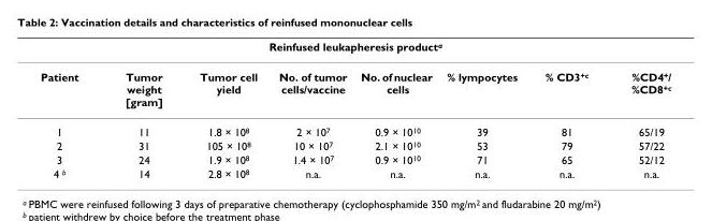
<table><thead><tr><td colspan="8">Reinfused leukapheresis product<sup>a</sup></td></tr><tr><td>Patient</td><td>Tumor weight [gram]</td><td>Tumor cell yield</td><td>No. of tumor cells/vaccine</td><td>No. of nuclear cells</td><td>% lympocytes</td><td>% CD3<sup>+c</sup></td><td>%CD4<sup>+</sup>/ %CD8<sup>+c</sup></td></tr></thead><tbody><tr><td>1</td><td>11</td><td>1.8 × 10<sup>8</sup></td><td>2 × 10<sup>7</sup></td><td>0.9 × 10<sup>10</sup></td><td>39</td><td>81</td><td>65/19</td></tr><tr><td>2</td><td>31</td><td>105 × 10<sup>8</sup></td><td>10 × 10<sup>7</sup></td><td>2.1 × 10<sup>10</sup></td><td>53</td><td>79</td><td>57/22</td></tr><tr><td>3</td><td>24</td><td>1.9 × 10<sup>8</sup></td><td>1.4 × 10<sup>7</sup></td><td>0.9 × 10<sup>10</sup></td><td>71</td><td>65</td><td>52/12</td></tr><tr><td>4 <sup>b</sup></td><td>14</td><td>2.8 × 10<sup>8</sup></td><td>n.a.</td><td>n.a.</td><td>n.a.</td><td>n.a.</td><td>n.a.</td></tr></tbody></table>